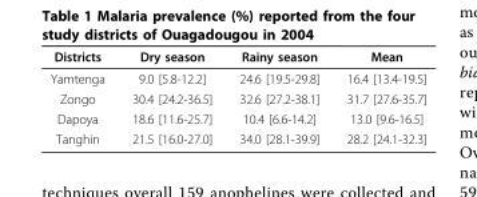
<table><thead><tr><td>Districts</td><td>Dry season</td><td>Rainy season</td><td>Mean</td></tr></thead><tbody><tr><td>Yamtenga</td><td>9.0 [5.8-12.2]</td><td>24.6 [19.5-29.8]</td><td>16.4 [13.4-19.5]</td></tr><tr><td>Zongo</td><td>30.4 [24.2-36.5]</td><td>32.6 [27.2-38.1]</td><td>31.7 [27.6-35.7]</td></tr><tr><td>Dapoya</td><td>18.6 [11.6-25.7]</td><td>10.4 [6.6-14.2]</td><td>13.0 [9.6-16.5]</td></tr><tr><td>Tanghin</td><td>21.5 [16.0-27.0]</td><td>34.0 [28.1-39.9]</td><td>28.2 [24.1-32.3]</td></tr></tbody></table>